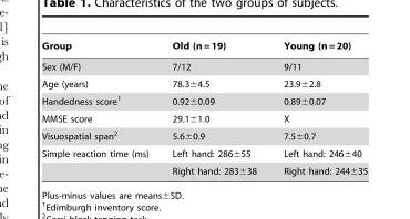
<table><thead><tr><td>Group</td><td>Old (n = 19)</td><td>Young (n = 20)</td></tr></thead><tbody><tr><td>Sex (M/F)</td><td>7/12</td><td>9/11</td></tr><tr><td>Age (years)</td><td>78.3±4.5</td><td>23.9±2.8</td></tr><tr><td>Handedness score<sup>1</sup></td><td>0.92±0.09</td><td>0.89±0.07</td></tr><tr><td>MMSE score</td><td>29.1±1.0</td><td>X</td></tr><tr><td>Visuospatial span<sup>2</sup></td><td>5.6±0.9</td><td>7.5±0.7</td></tr><tr><td rowspan="2">Simple reaction time (ms)</td><td>Left hand: 286±55</td><td>Left hand: 246±40</td></tr><tr><td>Right hand: 283±38</td><td>Right hand: 244±35</td></tr></tbody></table>